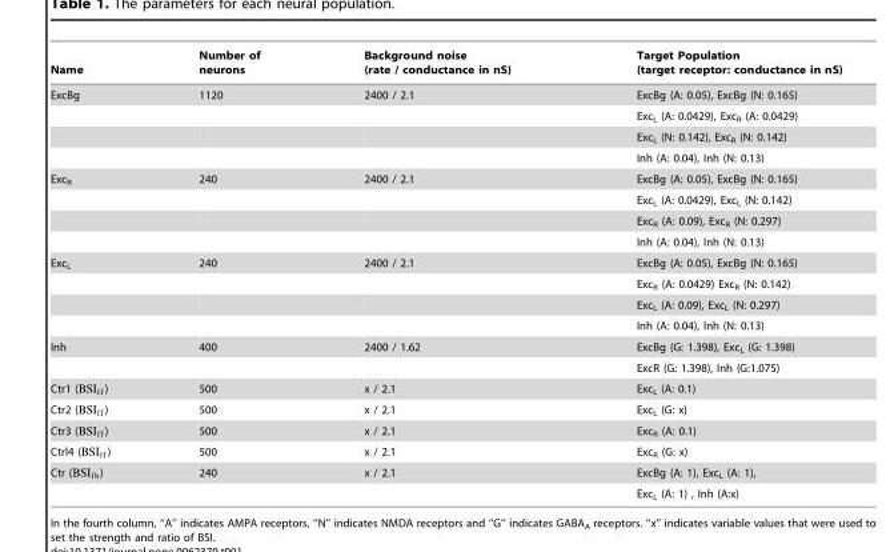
<table><thead><tr><td>Name</td><td>Number of neurons</td><td>Background noise (rate / conductance in nS)</td><td>Target Population (target receptor: conductance in nS)</td></tr></thead><tbody><tr><td rowspan="4">ExcBg</td><td>1120</td><td>2400 / 2.1</td><td>ExcBg (A: 0.05), ExcBg (N: 0.165)</td></tr><tr><td></td><td></td><td>Exc<sub>L</sub> (A: 0.0429), Exc<sub>R</sub> (A: 0.0429)</td></tr><tr><td></td><td></td><td>Exc<sub>L</sub> (N: 0.142), Exc<sub>R</sub> (N: 0.142)</td></tr><tr><td></td><td></td><td>Inh (A: 0.04), Inh (N: 0.13)</td></tr><tr><td rowspan="4">Exc<sub>R</sub></td><td>240</td><td>2400 / 2.1</td><td>ExcBg (A: 0.05), ExcBg (N: 0.165)</td></tr><tr><td></td><td></td><td>Exc<sub>L</sub> (A: 0.0429), Exc<sub>L</sub> (N: 0.142)</td></tr><tr><td></td><td></td><td>Exc<sub>R</sub> (A: 0.09), Exc<sub>R</sub> (N: 0.297)</td></tr><tr><td></td><td></td><td>Inh (A: 0.04), Inh (N: 0.13)</td></tr><tr><td rowspan="4">Exc<sub>L</sub></td><td>240</td><td>2400 / 2.1</td><td>ExcBg (A: 0.05), ExcBg (N: 0.165)</td></tr><tr><td></td><td></td><td>Exc<sub>R</sub> (A: 0.0429) Exc<sub>R</sub> (N: 0.142)</td></tr><tr><td></td><td></td><td>Exc<sub>L</sub> (A: 0.09), Exc<sub>L</sub> (N: 0.297)</td></tr><tr><td></td><td></td><td>Inh (A: 0.04), Inh (N: 0.13)</td></tr><tr><td rowspan="2">Inh</td><td>400</td><td>2400 / 1.62</td><td>ExcBg (G: 1.398), Exc<sub>L</sub> (G: 1.398)</td></tr><tr><td></td><td></td><td>ExcR (G: 1.398), Inh (G:1.075)</td></tr><tr><td>Ctr1 (BSIff)</td><td>500</td><td>x / 2.1</td><td>Exc<sub>L</sub> (A: 0.1)</td></tr><tr><td>Ctr2 (BSIff)</td><td>500</td><td>x / 2.1</td><td>Exc<sub>L</sub> (G: x)</td></tr><tr><td>Ctr3 (BSIff)</td><td>500</td><td>x / 2.1</td><td>Exc<sub>R</sub> (A: 0.1)</td></tr><tr><td>Ctrl4 (BSIff)</td><td>500</td><td>x / 2.1</td><td>Exc<sub>R</sub> (G: x)</td></tr><tr><td rowspan="2">Ctr (BSIfb)</td><td>240</td><td>x / 2.1</td><td>ExcBg (A: 1), Exc<sub>L</sub> (A: 1),</td></tr><tr><td></td><td></td><td>Exc<sub>L</sub> (A: 1) , Inh (A:x)</td></tr></tbody></table>